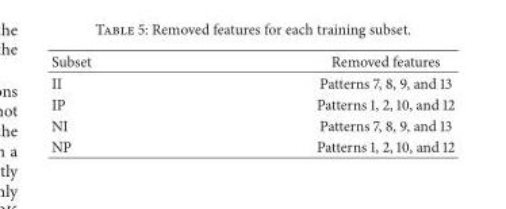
<table><thead><tr><td>Subset</td><td>Removed features</td></tr></thead><tbody><tr><td>II</td><td>Patterns 7, 8, 9, and 13</td></tr><tr><td>IP</td><td>Patterns 1, 2, 10, and 12</td></tr><tr><td>NI</td><td>Patterns 7, 8, 9, and 13</td></tr><tr><td>NP</td><td>Patterns 1, 2, 10, and 12</td></tr></tbody></table>